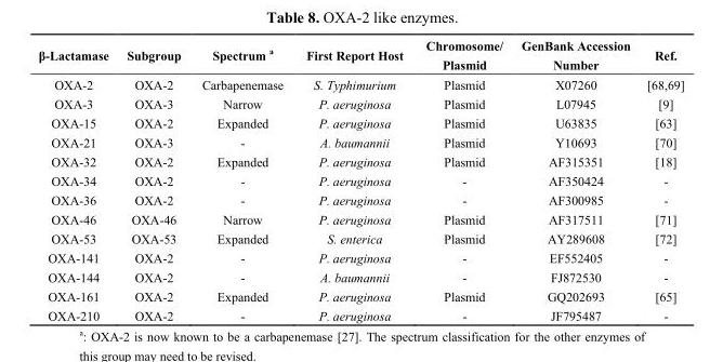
<table><thead><tr><td>β-Lactamase</td><td>Subgroup</td><td>Spectrum <sup>a</sup></td><td>First Report Host</td><td>Chromosome/ Plasmid</td><td>GenBank Accession Number</td><td>Ref.</td></tr></thead><tbody><tr><td>OXA-2</td><td>OXA-2</td><td>Carbapenemase</td><td>S. Typhimurium</td><td>Plasmid</td><td>X07260</td><td>[68,69]</td></tr><tr><td>OXA-3</td><td>OXA-3</td><td>Narrow</td><td>P. aeruginosa</td><td>Plasmid</td><td>L07945</td><td>[9]</td></tr><tr><td>OXA-15</td><td>OXA-2</td><td>Expanded</td><td>P. aeruginosa</td><td>Plasmid</td><td>U63835</td><td>[63]</td></tr><tr><td>OXA-21</td><td>OXA-3</td><td>-</td><td>A. baumannii</td><td>Plasmid</td><td>Y10693</td><td>[70]</td></tr><tr><td>OXA-32</td><td>OXA-2</td><td>Expanded</td><td>P. aeruginosa</td><td>Plasmid</td><td>AF315351</td><td>[18]</td></tr><tr><td>OXA-34</td><td>OXA-2</td><td>-</td><td>P. aeruginosa</td><td>-</td><td>AF350424</td><td>-</td></tr><tr><td>OXA-36</td><td>OXA-2</td><td>-</td><td>P. aeruginosa</td><td>-</td><td>AF300985</td><td>-</td></tr><tr><td>OXA-46</td><td>OXA-46</td><td>Narrow</td><td>P. aeruginosa</td><td>Plasmid</td><td>AF317511</td><td>[71]</td></tr><tr><td>OXA-53</td><td>OXA-53</td><td>Expanded</td><td>S. enterica</td><td>Plasmid</td><td>AY289608</td><td>[72]</td></tr><tr><td>OXA-141</td><td>OXA-2</td><td>-</td><td>P. aeruginosa</td><td>-</td><td>EF552405</td><td>-</td></tr><tr><td>OXA-144</td><td>OXA-2</td><td>-</td><td>A. baumannii</td><td>-</td><td>FJ872530</td><td>-</td></tr><tr><td>OXA-161</td><td>OXA-2</td><td>Expanded</td><td>P. aeruginosa</td><td>Plasmid</td><td>GQ202693</td><td>[65]</td></tr><tr><td>OXA-210</td><td>OXA-2</td><td>-</td><td>P. aeruginosa</td><td>-</td><td>JF795487</td><td>-</td></tr></tbody></table>